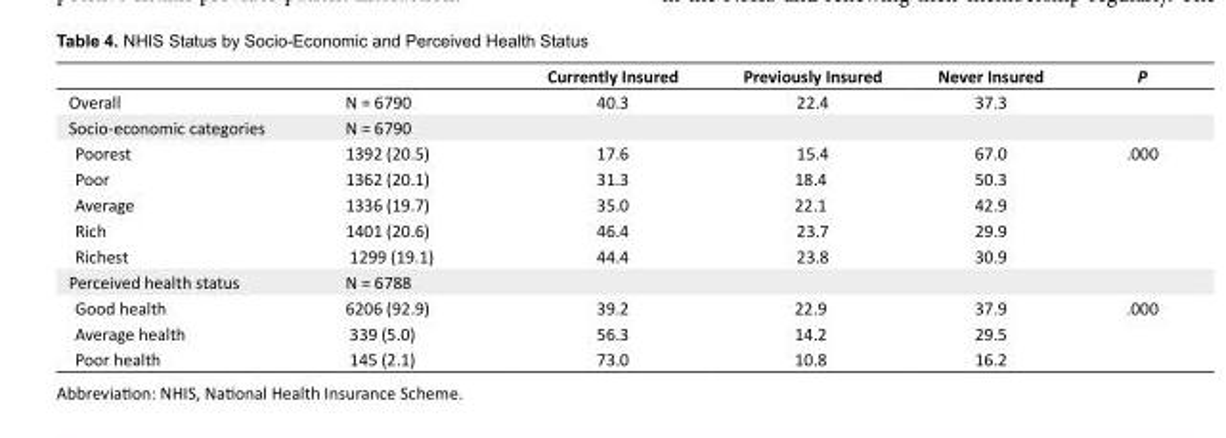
<table><thead><tr><td></td><td></td><td>Currently Insured</td><td>Previously Insured</td><td>Never Insured</td><td>P</td></tr></thead><tbody><tr><td>Overall</td><td>N = 6790</td><td>40.3</td><td>22.4</td><td>37.3</td><td></td></tr><tr><td>Socio-economic categories</td><td>N = 6790</td><td></td><td></td><td></td><td></td></tr><tr><td>Poorest</td><td>1392 (20.5)</td><td>17.6</td><td>15.4</td><td>67.0</td><td>.000</td></tr><tr><td>Poor</td><td>1362 (20.1)</td><td>31.3</td><td>18.4</td><td>50.3</td><td></td></tr><tr><td>Average</td><td>1336 (19.7)</td><td>35.0</td><td>22.1</td><td>42.9</td><td></td></tr><tr><td>Rich</td><td>1401 (20.6)</td><td>46.4</td><td>23.7</td><td>29.9</td><td></td></tr><tr><td>Richest</td><td>1299 (19.1)</td><td>44.4</td><td>23.8</td><td>30.9</td><td></td></tr><tr><td>Perceived health status</td><td>N = 6788</td><td></td><td></td><td></td><td></td></tr><tr><td>Good health</td><td>6206 (92.9)</td><td>39.2</td><td>22.9</td><td>37.9</td><td>.000</td></tr><tr><td>Average health</td><td>339 (5.0)</td><td>56.3</td><td>14.2</td><td>29.5</td><td></td></tr><tr><td>Poor health</td><td>145 (2.1)</td><td>73.0</td><td>10.8</td><td>16.2</td><td></td></tr></tbody></table>